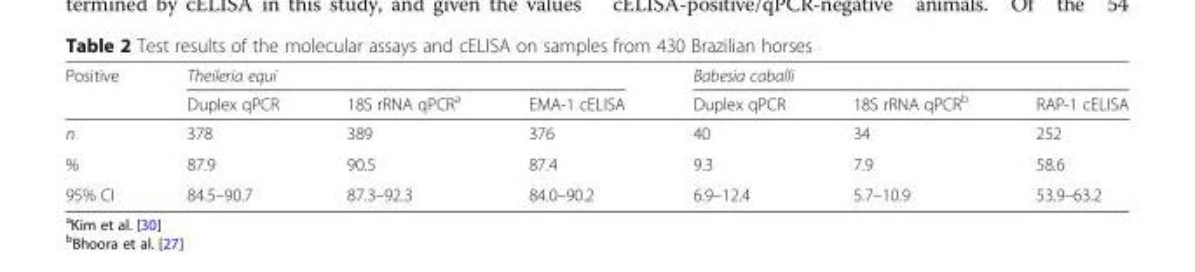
<table><thead><tr><td rowspan="2">Positive</td><td colspan="3">Theileria equi</td><td colspan="3">Babesia caballi</td></tr><tr><td>Duplex qPCR</td><td>18S rRNA qPCR<sup>a</sup></td><td>EMA-1 cELISA</td><td>Duplex qPCR</td><td>18S rRNA qPCR<sup>b</sup></td><td>RAP-1 cELISA</td></tr></thead><tbody><tr><td>n</td><td>378</td><td>389</td><td>376</td><td>40</td><td>34</td><td>252</td></tr><tr><td>%</td><td>87.9</td><td>90.5</td><td>87.4</td><td>9.3</td><td>7.9</td><td>58.6</td></tr><tr><td>95% CI</td><td>84.5–90.7</td><td>87.3–92.3</td><td>84.0–90.2</td><td>6.9–12.4</td><td>5.7–10.9</td><td>53.9–63.2</td></tr></tbody></table>